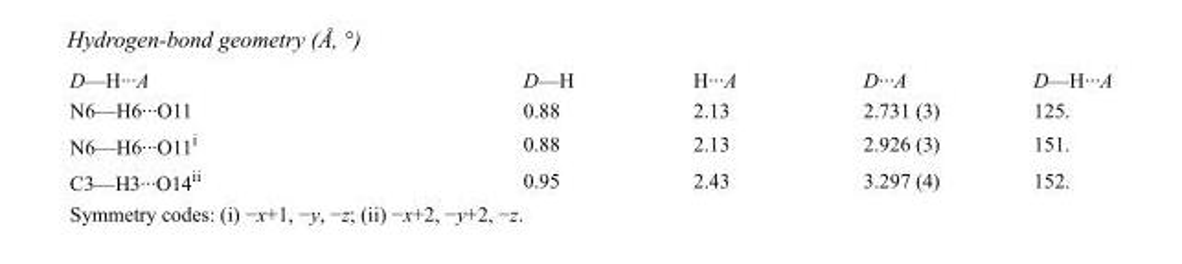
<table><tbody><tr><td>D—H···A</td><td>D—H</td><td>H···A</td><td>D···A</td><td>D—H···A</td></tr><tr><td>N6—H6···O11</td><td>0.88</td><td>2.13</td><td>2.731 (3)</td><td>125.</td></tr><tr><td>N6—H6···O11<sup>i</sup></td><td>0.88</td><td>2.13</td><td>2.926 (3)</td><td>151.</td></tr><tr><td>C3—H3···O14<sup>ii</sup></td><td>0.95</td><td>2.43</td><td>3.297 (4)</td><td>152.</td></tr></tbody></table>